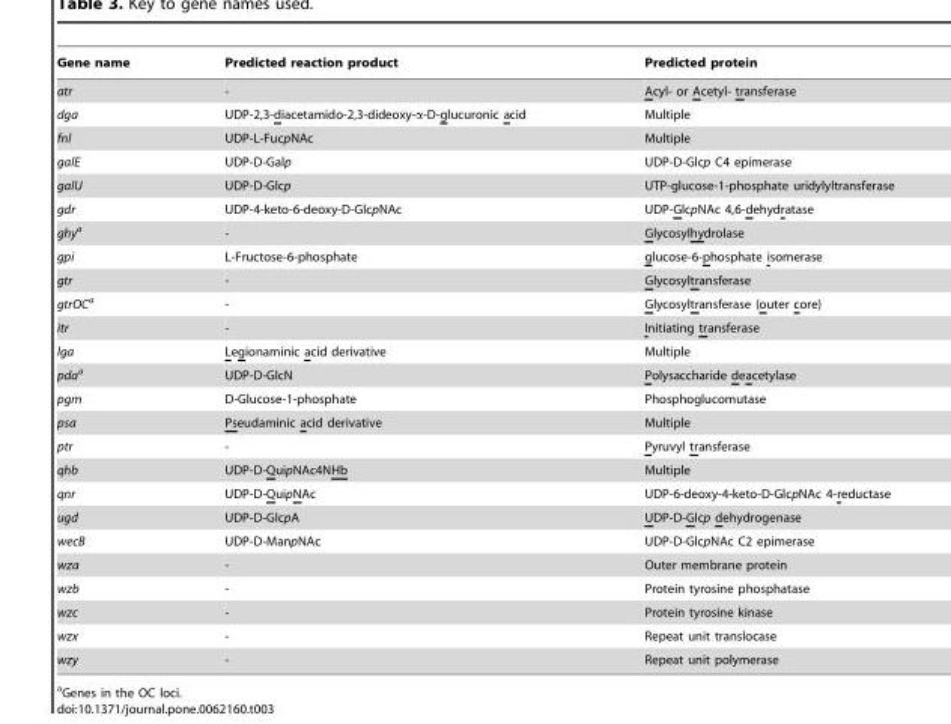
<table><thead><tr><td>Gene name</td><td>Predicted reaction product</td><td>Predicted protein</td></tr></thead><tbody><tr><td>atr</td><td>-</td><td>Acyl- or Acetyl- transferase</td></tr><tr><td>dga</td><td>UDP-2,3-diacetamido-2,3-dideoxy-α-D-glucuronic acid</td><td>Multiple</td></tr><tr><td>fnl</td><td>UDP-L-FucpNAc</td><td>Multiple</td></tr><tr><td>galE</td><td>UDP-D-Galp</td><td>UDP-D-Glcp C4 epimerase</td></tr><tr><td>galU</td><td>UDP-D-Glcp</td><td>UTP-glucose-1-phosphate uridylyltransferase</td></tr><tr><td>gdr</td><td>UDP-4-keto-6-deoxy-D-GlcpNAc</td><td>UDP-GlcpNAc 4,6-dehydratase</td></tr><tr><td>ghya</td><td>-</td><td>Glycosylhydrolase</td></tr><tr><td>gpi</td><td>L-Fructose-6-phosphate</td><td>glucose-6-phosphate isomerase</td></tr><tr><td>gtr</td><td>-</td><td>Glycosyltransferase</td></tr><tr><td>gtrOCa</td><td>-</td><td>Glycosyltransferase (outer core)</td></tr><tr><td>itr</td><td>-</td><td>Initiating transferase</td></tr><tr><td>lga</td><td>Legionaminic acid derivative</td><td>Multiple</td></tr><tr><td>pdaa</td><td>UDP-D-GlcN</td><td>Polysaccharide deacetylase</td></tr><tr><td>pgm</td><td>D-Glucose-1-phosphate</td><td>Phosphoglucomutase</td></tr><tr><td>psa</td><td>Pseudaminic acid derivative</td><td>Multiple</td></tr><tr><td>ptr</td><td>-</td><td>Pyruvyl transferase</td></tr><tr><td>qhb</td><td>UDP-D-QuipNAc4NHb</td><td>Multiple</td></tr><tr><td>qnr</td><td>UDP-D-QuipNAc</td><td>UDP-6-deoxy-4-keto-D-GlcpNAc 4-reductase</td></tr><tr><td>ugd</td><td>UDP-D-GlcpA</td><td>UDP-D-Glcp dehydrogenase</td></tr><tr><td>wecB</td><td>UDP-D-ManpNAc</td><td>UDP-D-GlcpNAc C2 epimerase</td></tr><tr><td>wza</td><td>-</td><td>Outer membrane protein</td></tr><tr><td>wzb</td><td>-</td><td>Protein tyrosine phosphatase</td></tr><tr><td>wzc</td><td>-</td><td>Protein tyrosine kinase</td></tr><tr><td>wzx</td><td>-</td><td>Repeat unit translocase</td></tr><tr><td>wzy</td><td>-</td><td>Repeat unit polymerase</td></tr></tbody></table>